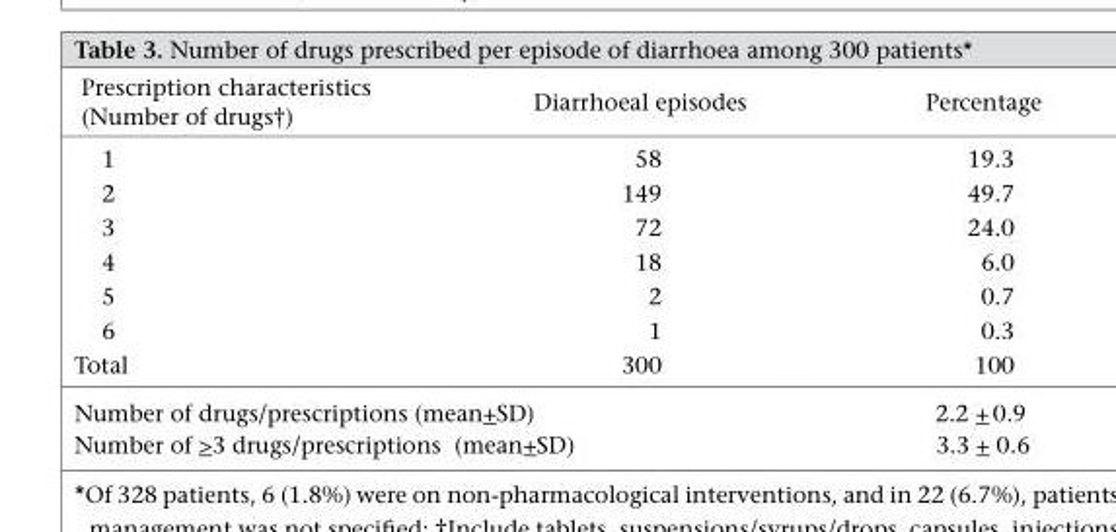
<table><thead><tr><td>Prescription characteristics (Number of drugs†)</td><td>Diarrhoeal episodes</td><td>Percentage</td></tr></thead><tbody><tr><td>1</td><td>58</td><td>19.3</td></tr><tr><td>2</td><td>149</td><td>49.7</td></tr><tr><td>3</td><td>72</td><td>24.0</td></tr><tr><td>4</td><td>18</td><td>6.0</td></tr><tr><td>5</td><td>2</td><td>0.7</td></tr><tr><td>6</td><td>1</td><td>0.3</td></tr><tr><td>Total</td><td>300</td><td>100</td></tr><tr><td colspan="2">Number of drugs/prescriptions (mean+SD)</td><td>2.2 + 0.9</td></tr><tr><td colspan="2">Number of &gt;3 drugs/prescriptions (mean+SD)</td><td>3.3 + 0.6</td></tr></tbody></table>